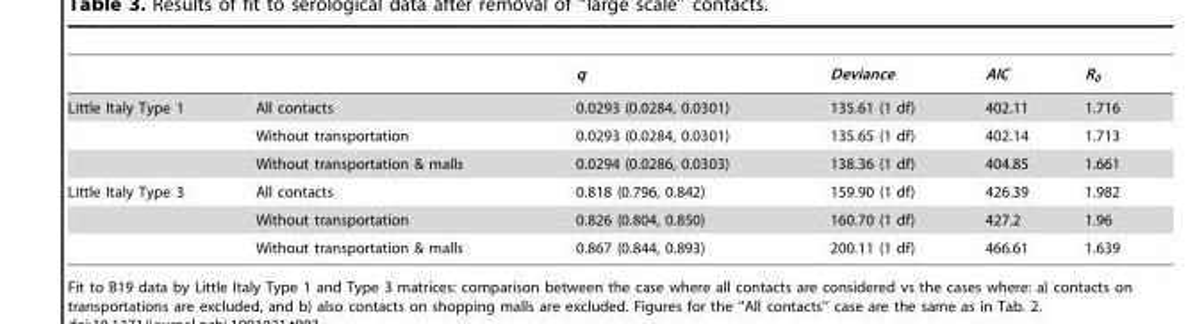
<table><thead><tr><td></td><td></td><td>q</td><td>Deviance</td><td>AIC</td><td>R<sub>0</sub></td></tr></thead><tbody><tr><td rowspan="3">Little Italy Type 1</td><td>All contacts</td><td>0.0293 (0.0284, 0.0301)</td><td>135.61 (1 df)</td><td>402.11</td><td>1.716</td></tr><tr><td>Without transportation</td><td>0.0293 (0.0284, 0.0301)</td><td>135.65 (1 df)</td><td>402.14</td><td>1.713</td></tr><tr><td>Without transportation &amp; malls</td><td>0.0294 (0.0286, 0.0303)</td><td>138.36 (1 df)</td><td>404.85</td><td>1.661</td></tr><tr><td rowspan="3">Little Italy Type 3</td><td>All contacts</td><td>0.818 (0.796, 0.842)</td><td>159.90 (1 df)</td><td>426.39</td><td>1.982</td></tr><tr><td>Without transportation</td><td>0.826 (0.804, 0.850)</td><td>160.70 (1 df)</td><td>427.2</td><td>1.96</td></tr><tr><td>Without transportation &amp; malls</td><td>0.867 (0.844, 0.893)</td><td>200.11 (1 df)</td><td>466.61</td><td>1.639</td></tr></tbody></table>